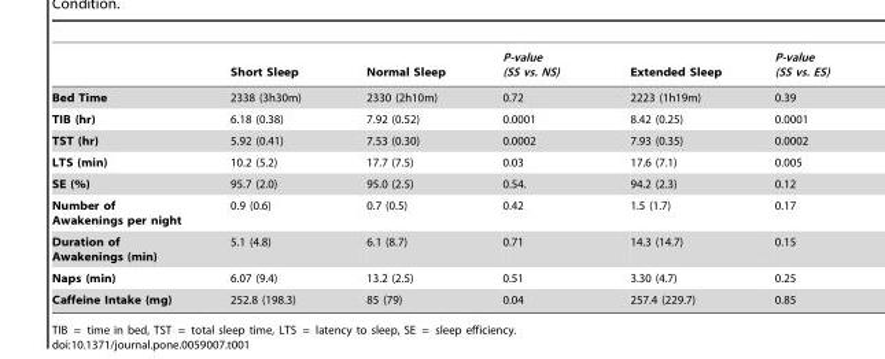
<table><thead><tr><td></td><td>Short Sleep</td><td>Normal Sleep</td><td>P-value (SS vs. NS)</td><td>Extended Sleep</td><td>P-value (SS vs. ES)</td></tr></thead><tbody><tr><td>Bed Time</td><td>2338 (3h30m)</td><td>2330 (2h10m)</td><td>0.72</td><td>2223 (1h19m)</td><td>0.39</td></tr><tr><td>TIB (hr)</td><td>6.18 (0.38)</td><td>7.92 (0.52)</td><td>0.0001</td><td>8.42 (0.25)</td><td>0.0001</td></tr><tr><td>TST (hr)</td><td>5.92 (0.41)</td><td>7.53 (0.30)</td><td>0.0002</td><td>7.93 (0.35)</td><td>0.0002</td></tr><tr><td>LTS (min)</td><td>10.2 (5.2)</td><td>17.7 (7.5)</td><td>0.03</td><td>17.6 (7.1)</td><td>0.005</td></tr><tr><td>SE (%)</td><td>95.7 (2.0)</td><td>95.0 (2.5)</td><td>0.54.</td><td>94.2 (2.3)</td><td>0.12</td></tr><tr><td>Number of Awakenings per night</td><td>0.9 (0.6)</td><td>0.7 (0.5)</td><td>0.42</td><td>1.5 (1.7)</td><td>0.17</td></tr><tr><td>Duration of Awakenings (min)</td><td>5.1 (4.8)</td><td>6.1 (8.7)</td><td>0.71</td><td>14.3 (14.7)</td><td>0.15</td></tr><tr><td>Naps (min)</td><td>6.07 (9.4)</td><td>13.2 (2.5)</td><td>0.51</td><td>3.30 (4.7)</td><td>0.25</td></tr><tr><td>Caffeine Intake (mg)</td><td>252.8 (198.3)</td><td>85 (79)</td><td>0.04</td><td>257.4 (229.7)</td><td>0.85</td></tr></tbody></table>